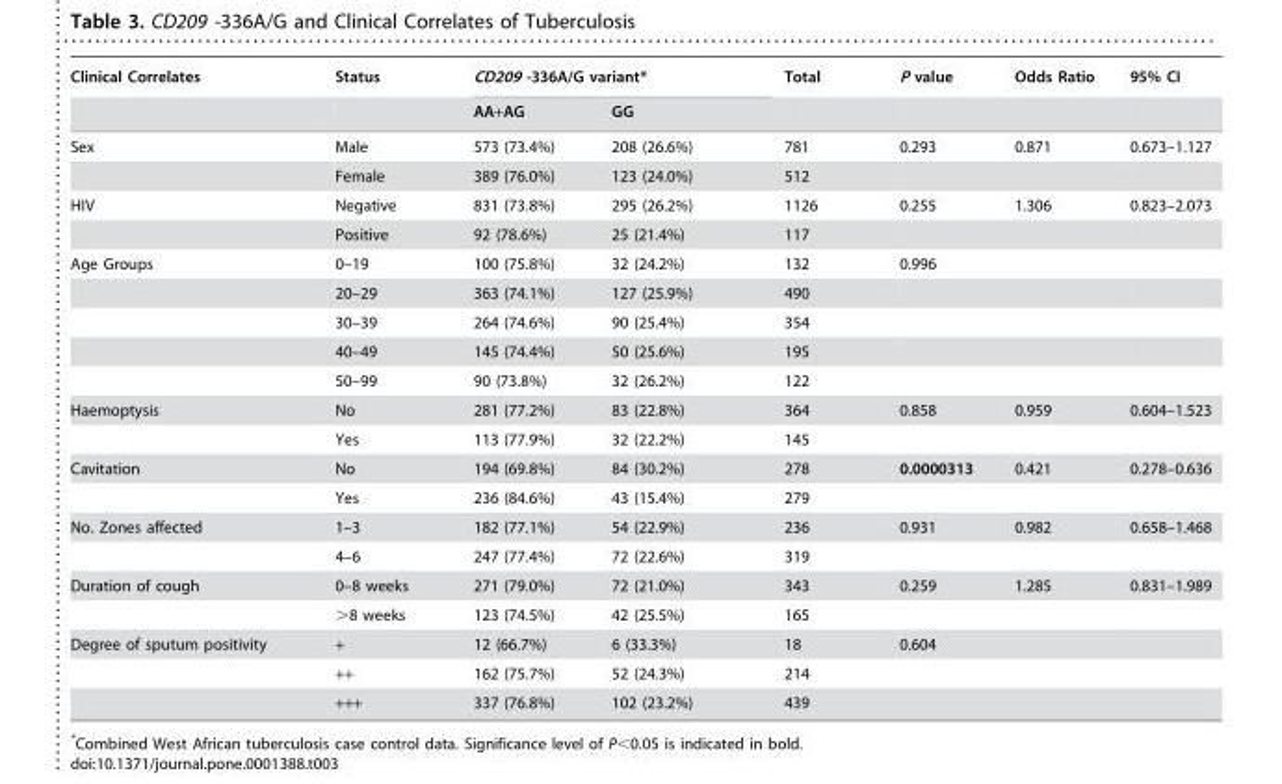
<table><thead><tr><td rowspan="2">Clinical Correlates</td><td rowspan="2">Status</td><td colspan="2">CD209 -336A/G variant*</td><td rowspan="2">Total</td><td rowspan="2">P value</td><td rowspan="2">Odds Ratio</td><td rowspan="2">95% CI</td></tr><tr><td>AA+AG</td><td>GG</td></tr></thead><tbody><tr><td rowspan="2">Sex</td><td>Male</td><td>573 (73.4%)</td><td>208 (26.6%)</td><td>781</td><td>0.293</td><td>0.871</td><td>0.673–1.127</td></tr><tr><td>Female</td><td>389 (76.0%)</td><td>123 (24.0%)</td><td>512</td><td></td><td></td><td></td></tr><tr><td rowspan="2">HIV</td><td>Negative</td><td>831 (73.8%)</td><td>295 (26.2%)</td><td>1126</td><td>0.255</td><td>1.306</td><td>0.823–2.073</td></tr><tr><td>Positive</td><td>92 (78.6%)</td><td>25 (21.4%)</td><td>117</td><td></td><td></td><td></td></tr><tr><td rowspan="5">Age Groups</td><td>0–19</td><td>100 (75.8%)</td><td>32 (24.2%)</td><td>132</td><td>0.996</td><td></td><td></td></tr><tr><td>20–29</td><td>363 (74.1%)</td><td>127 (25.9%)</td><td>490</td><td></td><td></td><td></td></tr><tr><td>30–39</td><td>264 (74.6%)</td><td>90 (25.4%)</td><td>354</td><td></td><td></td><td></td></tr><tr><td>40–49</td><td>145 (74.4%)</td><td>50 (25.6%)</td><td>195</td><td></td><td></td><td></td></tr><tr><td>50–99</td><td>90 (73.8%)</td><td>32 (26.2%)</td><td>122</td><td></td><td></td><td></td></tr><tr><td rowspan="2">Haemoptysis</td><td>No</td><td>281 (77.2%)</td><td>83 (22.8%)</td><td>364</td><td>0.858</td><td>0.959</td><td>0.604–1.523</td></tr><tr><td>Yes</td><td>113 (77.9%)</td><td>32 (22.2%)</td><td>145</td><td></td><td></td><td></td></tr><tr><td rowspan="2">Cavitation</td><td>No</td><td>194 (69.8%)</td><td>84 (30.2%)</td><td>278</td><td>0.0000313</td><td>0.421</td><td>0.278–0.636</td></tr><tr><td>Yes</td><td>236 (84.6%)</td><td>43 (15.4%)</td><td>279</td><td></td><td></td><td></td></tr><tr><td rowspan="2">No. Zones affected</td><td>1–3</td><td>182 (77.1%)</td><td>54 (22.9%)</td><td>236</td><td>0.931</td><td>0.982</td><td>0.658–1.468</td></tr><tr><td>4–6</td><td>247 (77.4%)</td><td>72 (22.6%)</td><td>319</td><td></td><td></td><td></td></tr><tr><td rowspan="2">Duration of cough</td><td>0–8 weeks</td><td>271 (79.0%)</td><td>72 (21.0%)</td><td>343</td><td>0.259</td><td>1.285</td><td>0.831–1.989</td></tr><tr><td>&gt;8 weeks</td><td>123 (74.5%)</td><td>42 (25.5%)</td><td>165</td><td></td><td></td><td></td></tr><tr><td rowspan="3">Degree of sputum positivity</td><td>+</td><td>12 (66.7%)</td><td>6 (33.3%)</td><td>18</td><td>0.604</td><td></td><td></td></tr><tr><td>++</td><td>162 (75.7%)</td><td>52 (24.3%)</td><td>214</td><td></td><td></td><td></td></tr><tr><td>+++</td><td>337 (76.8%)</td><td>102 (23.2%)</td><td>439</td><td></td><td></td><td></td></tr></tbody></table>